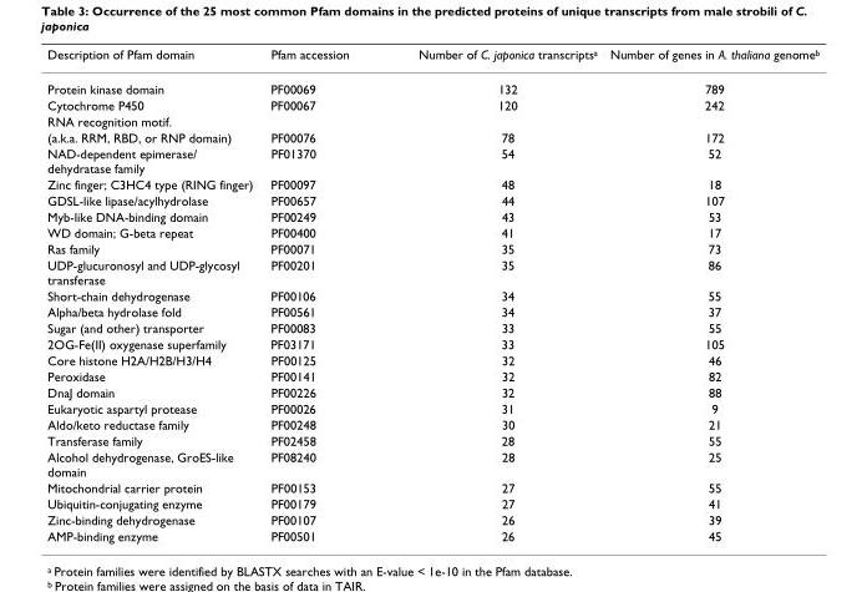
<table><thead><tr><td>Description of Pfam domain</td><td>Pfam accession</td><td>Number of C. japonica transcripts<sup>a</sup></td><td>Number of genes in A. thaliana genome<sup>b</sup></td></tr></thead><tbody><tr><td>Protein kinase domain</td><td>PF00069</td><td>132</td><td>789</td></tr><tr><td>Cytochrome P450</td><td>PF00067</td><td>120</td><td>242</td></tr><tr><td colspan="4">RNA recognition motif.</td></tr><tr><td>(a.k.a. RRM, RBD, or RNP domain)</td><td>PF00076</td><td>78</td><td>172</td></tr><tr><td>NAD-dependent epimerase/ dehydratase family</td><td>PF01370</td><td>54</td><td>52</td></tr><tr><td>Zinc finger; C3HC4 type (RING finger)</td><td>PF00097</td><td>48</td><td>18</td></tr><tr><td>GDSL-like lipase/acylhydrolase</td><td>PF00657</td><td>44</td><td>107</td></tr><tr><td>Myb-like DNA-binding domain</td><td>PF00249</td><td>43</td><td>53</td></tr><tr><td>WD domain; G-beta repeat</td><td>PF00400</td><td>41</td><td>17</td></tr><tr><td>Ras family</td><td>PF00071</td><td>35</td><td>73</td></tr><tr><td>UDP-glucuronosyl and UDP-glycosyl transferase</td><td>PF00201</td><td>35</td><td>86</td></tr><tr><td>Short-chain dehydrogenase</td><td>PF00106</td><td>34</td><td>55</td></tr><tr><td>Alpha/beta hydrolase fold</td><td>PF00561</td><td>34</td><td>37</td></tr><tr><td>Sugar (and other) transporter</td><td>PF00083</td><td>33</td><td>55</td></tr><tr><td>2OG-Fe(II) oxygenase superfamily</td><td>PF03171</td><td>33</td><td>105</td></tr><tr><td>Core histone H2A/H2B/H3/H4</td><td>PF00125</td><td>32</td><td>46</td></tr><tr><td>Peroxidase</td><td>PF00141</td><td>32</td><td>82</td></tr><tr><td>DnaJ domain</td><td>PF00226</td><td>32</td><td>88</td></tr><tr><td>Eukaryotic aspartyl protease</td><td>PF00026</td><td>31</td><td>9</td></tr><tr><td>Aldo/keto reductase family</td><td>PF00248</td><td>30</td><td>21</td></tr><tr><td>Transferase family</td><td>PF02458</td><td>28</td><td>55</td></tr><tr><td>Alcohol dehydrogenase, GroES-like domain</td><td>PF08240</td><td>28</td><td>25</td></tr><tr><td>Mitochondrial carrier protein</td><td>PF00153</td><td>27</td><td>55</td></tr><tr><td>Ubiquitin-conjugating enzyme</td><td>PF00179</td><td>27</td><td>41</td></tr><tr><td>Zinc-binding dehydrogenase</td><td>PF00107</td><td>26</td><td>39</td></tr><tr><td>AMP-binding enzyme</td><td>PF00501</td><td>26</td><td>45</td></tr></tbody></table>